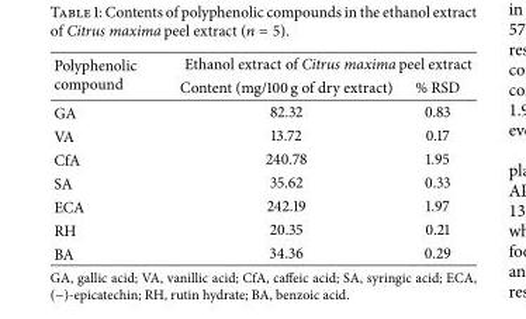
<table><thead><tr><td rowspan="2">Polyphenolic compound</td><td colspan="2">Ethanol extract of Citrus maxima peel extract</td></tr><tr><td>Content (mg/100 g of dry extract)</td><td>% RSD</td></tr></thead><tbody><tr><td>GA</td><td>82.32</td><td>0.83</td></tr><tr><td>VA</td><td>13.72</td><td>0.17</td></tr><tr><td>CfA</td><td>240.78</td><td>1.95</td></tr><tr><td>SA</td><td>35.62</td><td>0.33</td></tr><tr><td>ECA</td><td>242.19</td><td>1.97</td></tr><tr><td>RH</td><td>20.35</td><td>0.21</td></tr><tr><td>BA</td><td>34.36</td><td>0.29</td></tr></tbody></table>